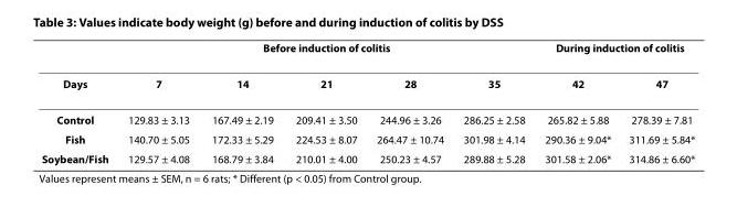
<table><thead><tr><td rowspan="2">Days</td><td colspan="5">Before induction of colitis</td><td colspan="2">During induction of colitis</td></tr><tr><td>7</td><td>14</td><td>21</td><td>28</td><td>35</td><td>42</td><td>47</td></tr></thead><tbody><tr><td>Control</td><td>129.83 ± 3.13</td><td>167.49 ± 2.19</td><td>209.41 ± 3.50</td><td>244.96 ± 3.26</td><td>286.25 ± 2.58</td><td>265.82 ± 5.88</td><td>278.39 ± 7.81</td></tr><tr><td>Fish</td><td>140.70 ± 5.05</td><td>172.33 ± 5.29</td><td>224.53 ± 8.07</td><td>264.47 ± 10.74</td><td>301.98 ± 4.14</td><td>290.36 ± 9.04*</td><td>311.69 ± 5.84*</td></tr><tr><td>Soybean/Fish</td><td>129.57 ± 4.08</td><td>168.79 ± 3.84</td><td>210.01 ± 4.00</td><td>250.23 ± 4.57</td><td>289.88 ± 5.28</td><td>301.58 ± 2.06*</td><td>314.86 ± 6.60*</td></tr></tbody></table>